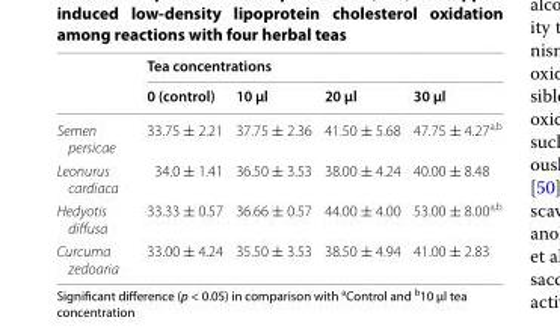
<table><thead><tr><td rowspan="2"></td><td colspan="4">Tea concentrations</td></tr><tr><td>0 (control)</td><td>10 µl</td><td>20 µl</td><td>30 µl</td></tr></thead><tbody><tr><td>Semen persicae</td><td>33.75 ± 2.21</td><td>37.75 ± 2.36</td><td>41.50 ± 5.68</td><td>47.75 ± 4.27<sup>a,b</sup></td></tr><tr><td>Leonurus cardiaca</td><td>34.0 ± 1.41</td><td>36.50 ± 3.53</td><td>38.00 ± 4.24</td><td>40.00 ± 8.48</td></tr><tr><td>Hedyotis diffusa</td><td>33.33 ± 0.57</td><td>36.66 ± 0.57</td><td>44.00 ± 4.00</td><td>53.00 ± 8.00<sup>a,b</sup></td></tr><tr><td>Curcuma zedoaria</td><td>33.00 ± 4.24</td><td>35.50 ± 3.53</td><td>38.50 ± 4.94</td><td>41.00 ± 2.83</td></tr></tbody></table>